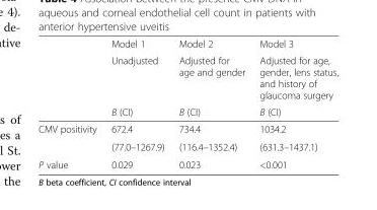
<table><thead><tr><td rowspan="3"></td><td rowspan="3">Model 1 Unadjusted B (CI)</td><td rowspan="3">Model 2 Adjusted for age and gender B (CI)</td><td rowspan="3">Model 3 Adjusted for age, gender, lens status, and history of glaucoma surgery B (CI)</td></tr><tr></tr><tr></tr></thead><tbody><tr><td rowspan="2">CMV positivity</td><td>672.4</td><td>734.4</td><td>1034.2</td></tr><tr><td>(77.0–1267.9)</td><td>(116.4–1352.4)</td><td>(631.3–1437.1)</td></tr><tr><td>P value</td><td>0.029</td><td>0.023</td><td>&lt;0.001</td></tr></tbody></table>